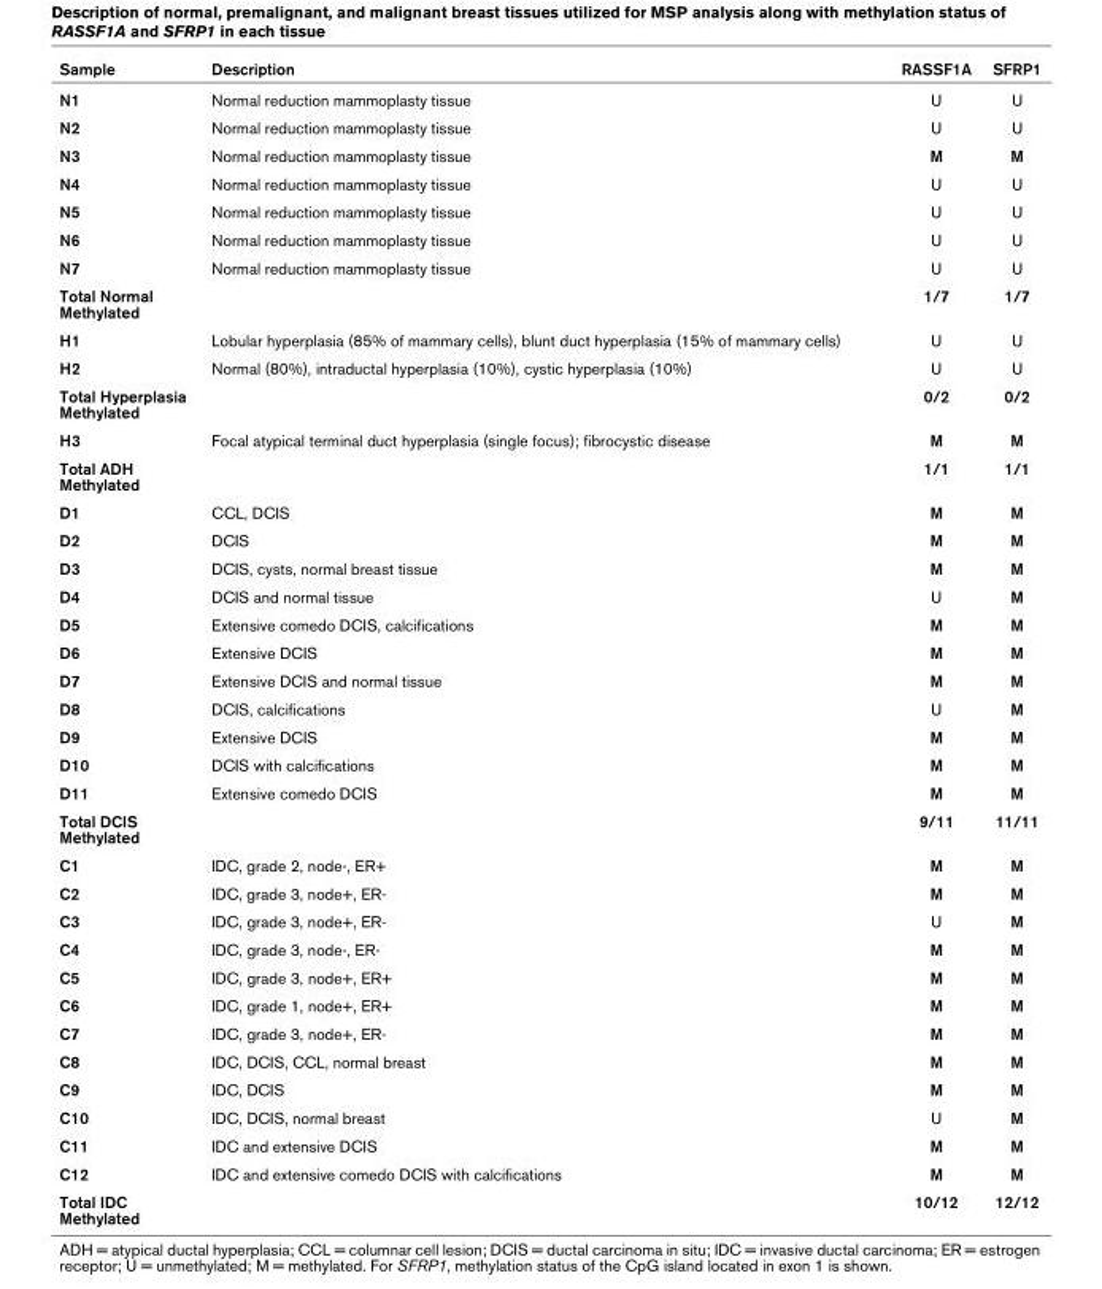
<table><thead><tr><td>Sample</td><td>Description</td><td>RASSF1A</td><td>SFRP1</td></tr></thead><tbody><tr><td>N1</td><td>Normal reduction mammoplasty tissue</td><td>U</td><td>U</td></tr><tr><td>N2</td><td>Normal reduction mammoplasty tissue</td><td>U</td><td>U</td></tr><tr><td>N3</td><td>Normal reduction mammoplasty tissue</td><td>M</td><td>M</td></tr><tr><td>N4</td><td>Normal reduction mammoplasty tissue</td><td>U</td><td>U</td></tr><tr><td>N5</td><td>Normal reduction mammoplasty tissue</td><td>U</td><td>U</td></tr><tr><td>N6</td><td>Normal reduction mammoplasty tissue</td><td>U</td><td>U</td></tr><tr><td>N7</td><td>Normal reduction mammoplasty tissue</td><td>U</td><td>U</td></tr><tr><td>Total Normal Methylated</td><td></td><td>1/7</td><td>1/7</td></tr><tr><td>H1</td><td>Lobular hyperplasia (85% of mammary cells), blunt duct hyperplasia (15% of mammary cells)</td><td>U</td><td>U</td></tr><tr><td>H2</td><td>Normal (80%), intraductal hyperplasia (10%), cystic hyperplasia (10%)</td><td>U</td><td>U</td></tr><tr><td>Total Hyperplasia Methylated</td><td></td><td>0/2</td><td>0/2</td></tr><tr><td>H3</td><td>Focal atypical terminal duct hyperplasia (single focus); fibrocystic disease</td><td>M</td><td>M</td></tr><tr><td>Total ADH Methylated</td><td></td><td>1/1</td><td>1/1</td></tr><tr><td>D1</td><td>CCL, DCIS</td><td>M</td><td>M</td></tr><tr><td>D2</td><td>DCIS</td><td>M</td><td>M</td></tr><tr><td>D3</td><td>DCIS, cysts, normal breast tissue</td><td>M</td><td>M</td></tr><tr><td>D4</td><td>DCIS and normal tissue</td><td>U</td><td>M</td></tr><tr><td>D5</td><td>Extensive comedo DCIS, calcifications</td><td>M</td><td>M</td></tr><tr><td>D6</td><td>Extensive DCIS</td><td>M</td><td>M</td></tr><tr><td>D7</td><td>Extensive DCIS and normal tissue</td><td>M</td><td>M</td></tr><tr><td>D8</td><td>DCIS, calcifications</td><td>U</td><td>M</td></tr><tr><td>D9</td><td>Extensive DCIS</td><td>M</td><td>M</td></tr><tr><td>D10</td><td>DCIS with calcifications</td><td>M</td><td>M</td></tr><tr><td>D11</td><td>Extensive comedo DCIS</td><td>M</td><td>M</td></tr><tr><td>Total DCIS Methylated</td><td></td><td>9/11</td><td>11/11</td></tr><tr><td>C1</td><td>IDC, grade 2, node-, ER+</td><td>M</td><td>M</td></tr><tr><td>C2</td><td>IDC, grade 3, node+, ER-</td><td>M</td><td>M</td></tr><tr><td>C3</td><td>IDC, grade 3, node+, ER-</td><td>U</td><td>M</td></tr><tr><td>C4</td><td>IDC, grade 3, node-, ER-</td><td>M</td><td>M</td></tr><tr><td>C5</td><td>IDC, grade 3, node+, ER+</td><td>M</td><td>M</td></tr><tr><td>C6</td><td>IDC, grade 1, node+, ER+</td><td>M</td><td>M</td></tr><tr><td>C7</td><td>IDC, grade 3, node+, ER-</td><td>M</td><td>M</td></tr><tr><td>C8</td><td>IDC, DCIS, CCL, normal breast</td><td>M</td><td>M</td></tr><tr><td>C9</td><td>IDC, DCIS</td><td>M</td><td>M</td></tr><tr><td>C10</td><td>IDC, DCIS, normal breast</td><td>U</td><td>M</td></tr><tr><td>C11</td><td>IDC and extensive DCIS</td><td>M</td><td>M</td></tr><tr><td>C12</td><td>IDC and extensive comedo DCIS with calcifications</td><td>M</td><td>M</td></tr><tr><td>Total IDC Methylated</td><td></td><td>10/12</td><td>12/12</td></tr></tbody></table>